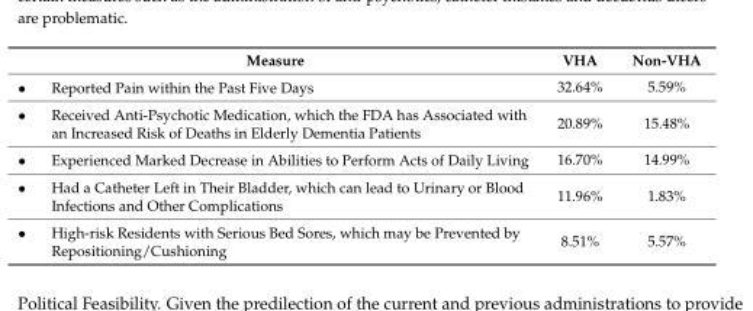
<table><thead><tr><td>Measure</td><td>VHA</td><td>Non-VHA</td></tr></thead><tbody><tr><td>Reported Pain within the Past Five Days</td><td>32.64%</td><td>5.59%</td></tr><tr><td>Received Anti-Psychotic Medication, which the FDA has Associated with an Increased Risk of Deaths in Elderly Dementia Patients</td><td>20.89%</td><td>15.48%</td></tr><tr><td>Experienced Marked Decrease in Abilities to Perform Acts of Daily Living</td><td>16.70%</td><td>14.99%</td></tr><tr><td>Had a Catheter Left in Their Bladder, which can lead to Urinary or Blood Infections and Other Complications</td><td>11.96%</td><td>1.83%</td></tr><tr><td>High-risk Residents with Serious Bed Sores, which may be Prevented by Repositioning/Cushioning</td><td>8.51%</td><td>5.57%</td></tr></tbody></table>